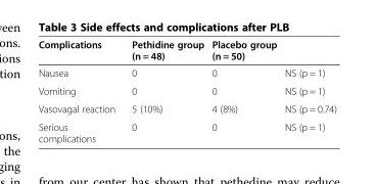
<table><thead><tr><td>Complications</td><td>Pethidine group (n = 48)</td><td>Placebo group (n = 50)</td><td></td></tr></thead><tbody><tr><td>Nausea</td><td>0</td><td>0</td><td>NS (p = 1)</td></tr><tr><td>Vomiting</td><td>0</td><td>0</td><td>NS (p = 1)</td></tr><tr><td>Vasovagal reaction</td><td>5 (10%)</td><td>4 (8%)</td><td>NS (p = 0.74)</td></tr><tr><td>Serious complications</td><td>0</td><td>0</td><td>NS (p = 1)</td></tr></tbody></table>